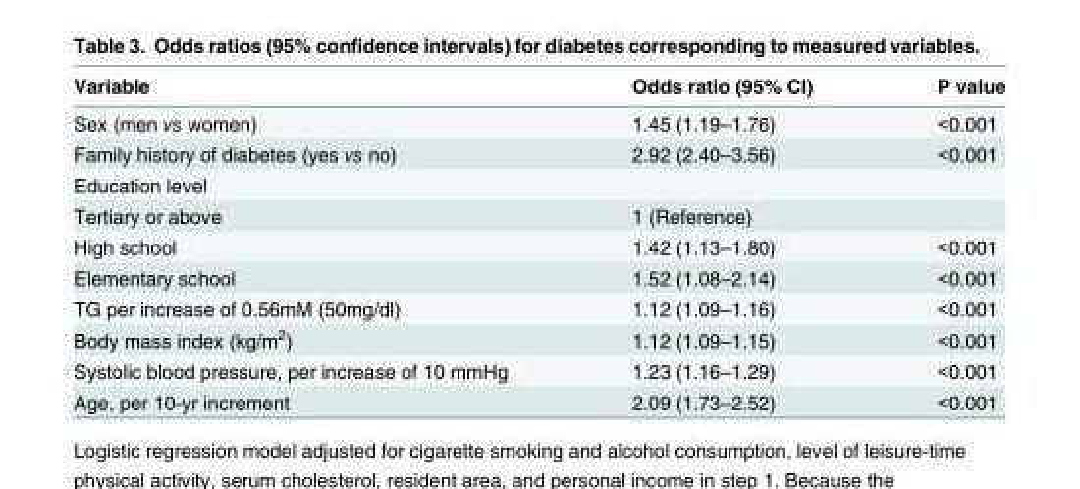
<table><thead><tr><td>Variable</td><td>Odds ratio (95% CI)</td><td>P value</td></tr></thead><tbody><tr><td>Sex (men vs women)</td><td>1.45 (1.19–1.76)</td><td>&lt;0.001</td></tr><tr><td>Family history of diabetes (yes vs no)</td><td>2.92 (2.40–3.56)</td><td>&lt;0.001</td></tr><tr><td colspan="3">Education level</td></tr><tr><td>Tertiary or above</td><td>1 (Reference)</td><td></td></tr><tr><td>High school</td><td>1.42 (1.13–1.80)</td><td>&lt;0.001</td></tr><tr><td>Elementary school</td><td>1.52 (1.08–2.14)</td><td>&lt;0.001</td></tr><tr><td>TG per increase of 0.56mM (50mg/dl)</td><td>1.12 (1.09–1.16)</td><td>&lt;0.001</td></tr><tr><td>Body mass index (kg/m<sup>2</sup>)</td><td>1.12 (1.09–1.15)</td><td>&lt;0.001</td></tr><tr><td>Systolic blood pressure, per increase of 10 mmHg</td><td>1.23 (1.16–1.29)</td><td>&lt;0.001</td></tr><tr><td>Age, per 10-yr increment</td><td>2.09 (1.73–2.52)</td><td>&lt;0.001</td></tr></tbody></table>